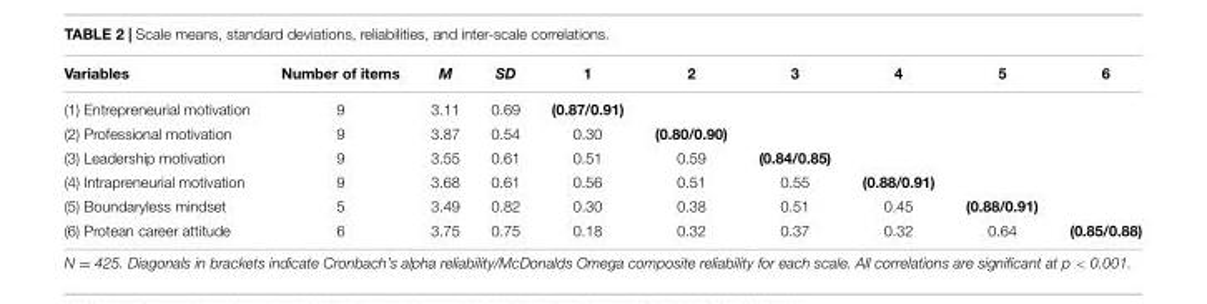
<table><thead><tr><td>Variables</td><td>Number of items</td><td>M</td><td>SD</td><td>1</td><td>2</td><td>3</td><td>4</td><td>5</td><td>6</td></tr></thead><tbody><tr><td>(1) Entrepreneurial motivation</td><td>9</td><td>3.11</td><td>0.69</td><td>(0.87/0.91)</td><td></td><td></td><td></td><td></td><td></td></tr><tr><td>(2) Professional motivation</td><td>9</td><td>3.87</td><td>0.54</td><td>0.30</td><td>(0.80/0.90)</td><td></td><td></td><td></td><td></td></tr><tr><td>(3) Leadership motivation</td><td>9</td><td>3.55</td><td>0.61</td><td>0.51</td><td>0.59</td><td>(0.84/0.85)</td><td></td><td></td><td></td></tr><tr><td>(4) Intrapreneurial motivation</td><td>9</td><td>3.68</td><td>0.61</td><td>0.56</td><td>0.51</td><td>0.55</td><td>(0.88/0.91)</td><td></td><td></td></tr><tr><td>(5) Boundaryless mindset</td><td>5</td><td>3.49</td><td>0.82</td><td>0.30</td><td>0.38</td><td>0.51</td><td>0.45</td><td>(0.88/0.91)</td><td></td></tr><tr><td>(6) Protean career attitude</td><td>6</td><td>3.75</td><td>0.75</td><td>0.18</td><td>0.32</td><td>0.37</td><td>0.32</td><td>0.64</td><td>(0.85/0.88)</td></tr></tbody></table>